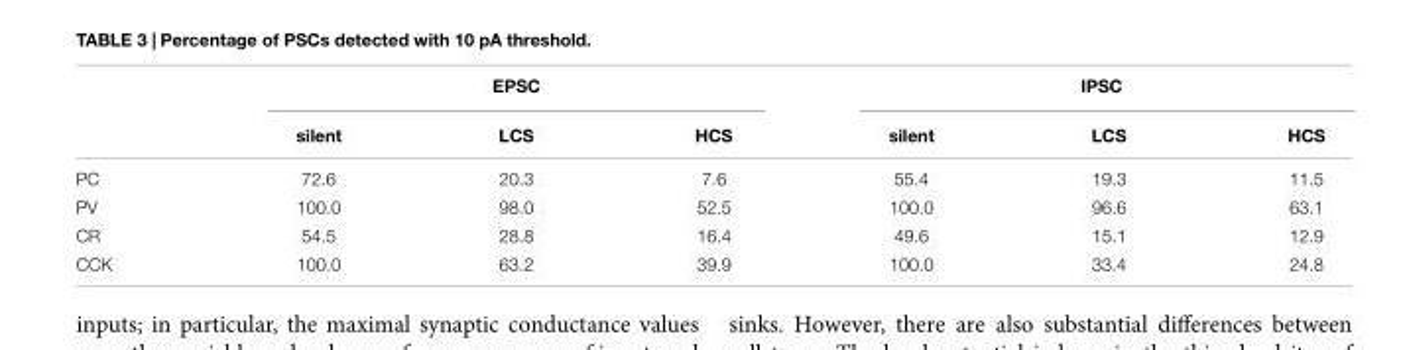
<table><thead><tr><td rowspan="2"></td><td colspan="3">EPSC</td><td colspan="3">IPSC</td></tr><tr><td>silent</td><td>LCS</td><td>HCS</td><td>silent</td><td>LCS</td><td>HCS</td></tr></thead><tbody><tr><td>PC</td><td>72.6</td><td>20.3</td><td>7.6</td><td>55.4</td><td>19.3</td><td>11.5</td></tr><tr><td>PV</td><td>100.0</td><td>98.0</td><td>52.5</td><td>100.0</td><td>96.6</td><td>63.1</td></tr><tr><td>CR</td><td>54.5</td><td>28.8</td><td>16.4</td><td>49.6</td><td>15.1</td><td>12.9</td></tr><tr><td>CCK</td><td>100.0</td><td>63.2</td><td>39.9</td><td>100.0</td><td>33.4</td><td>24.8</td></tr></tbody></table>